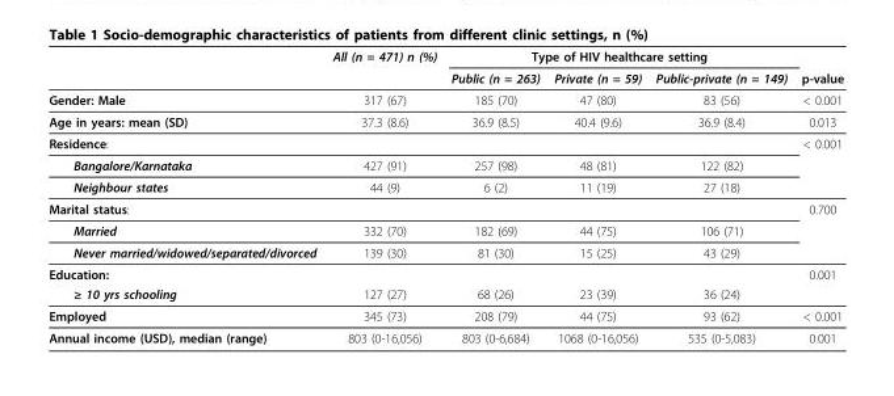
<table><thead><tr><td rowspan="2"></td><td rowspan="2">All (n = 471) n (%)</td><td colspan="3">Type of HIV healthcare setting</td><td rowspan="2">p-value</td></tr><tr><td>Public (n = 263)</td><td>Private (n = 59)</td><td>Public-private (n = 149)</td></tr></thead><tbody><tr><td>Gender: Male</td><td>317 (67)</td><td>185 (70)</td><td>47 (80)</td><td>83 (56)</td><td>&lt; 0.001</td></tr><tr><td>Age in years: mean (SD)</td><td>37.3 (8.6)</td><td>36.9 (8.5)</td><td>40.4 (9.6)</td><td>36.9 (8.4)</td><td>0.013</td></tr><tr><td>Residence:</td><td></td><td></td><td></td><td></td><td>&lt; 0.001</td></tr><tr><td>Bangalore/Karnataka</td><td>427 (91)</td><td>257 (98)</td><td>48 (81)</td><td>122 (82)</td><td></td></tr><tr><td>Neighbour states</td><td>44 (9)</td><td>6 (2)</td><td>11 (19)</td><td>27 (18)</td><td></td></tr><tr><td>Marital status:</td><td></td><td></td><td></td><td></td><td>0.700</td></tr><tr><td>Married</td><td>332 (70)</td><td>182 (69)</td><td>44 (75)</td><td>106 (71)</td><td></td></tr><tr><td>Never married/widowed/separated/divorced</td><td>139 (30)</td><td>81 (30)</td><td>15 (25)</td><td>43 (29)</td><td></td></tr><tr><td>Education:</td><td></td><td></td><td></td><td></td><td>0.001</td></tr><tr><td>≥ 10 yrs schooling</td><td>127 (27)</td><td>68 (26)</td><td>23 (39)</td><td>36 (24)</td><td></td></tr><tr><td>Employed</td><td>345 (73)</td><td>208 (79)</td><td>44 (75)</td><td>93 (62)</td><td>&lt; 0.001</td></tr><tr><td>Annual income (USD), median (range)</td><td>803 (0-16,056)</td><td>803 (0-6,684)</td><td>1068 (0-16,056)</td><td>535 (0-5,083)</td><td>0.001</td></tr></tbody></table>